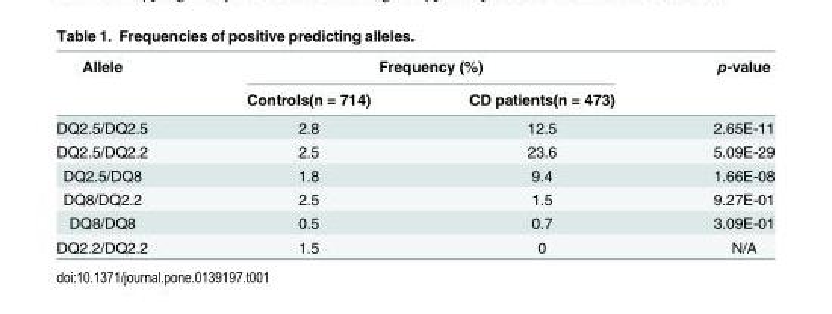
<table><thead><tr><td rowspan="2">Allele</td><td colspan="2">Frequency (%)</td><td rowspan="2">p-value</td></tr><tr><td>Controls(n = 714)</td><td>CD patients(n = 473)</td></tr></thead><tbody><tr><td>DQ2.5/DQ2.5</td><td>2.8</td><td>12.5</td><td>2.65E-11</td></tr><tr><td>DQ2.5/DQ2.2</td><td>2.5</td><td>23.6</td><td>5.09E-29</td></tr><tr><td>DQ2.5/DQ8</td><td>1.8</td><td>9.4</td><td>1.66E-08</td></tr><tr><td>DQ8/DQ2.2</td><td>2.5</td><td>1.5</td><td>9.27E-01</td></tr><tr><td>DQ8/DQ8</td><td>0.5</td><td>0.7</td><td>3.09E-01</td></tr><tr><td>DQ2.2/DQ2.2</td><td>1.5</td><td>0</td><td>N/A</td></tr></tbody></table>